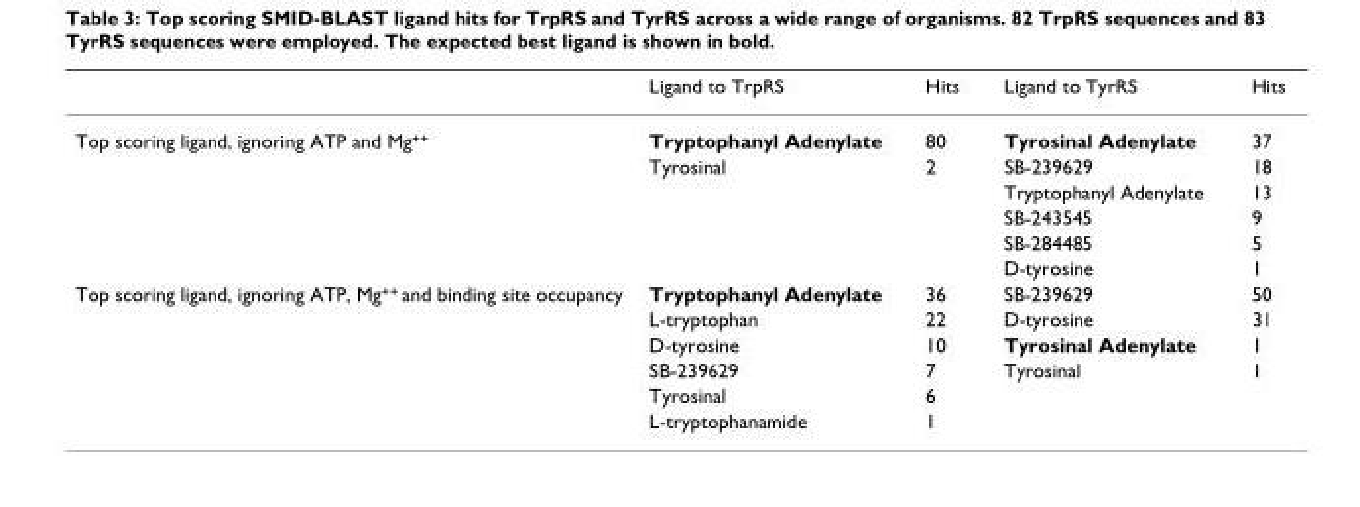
<table><thead><tr><td></td><td>Ligand to TrpRS</td><td>Hits</td><td>Ligand to TyrRS</td><td>Hits</td></tr></thead><tbody><tr><td rowspan="6">Top scoring ligand, ignoring ATP and Mg++</td><td>Tryptophanyl Adenylate</td><td>80</td><td>Tyrosinal Adenylate</td><td>37</td></tr><tr><td>Tyrosinal</td><td>2</td><td>SB-239629</td><td>18</td></tr><tr><td></td><td></td><td>Tryptophanyl Adenylate</td><td>13</td></tr><tr><td></td><td></td><td>SB-243545</td><td>9</td></tr><tr><td></td><td></td><td>SB-284485</td><td>5</td></tr><tr><td></td><td></td><td>D-tyrosine</td><td>1</td></tr><tr><td rowspan="6">Top scoring ligand, ignoring ATP, Mg++ and binding site occupancy</td><td>Tryptophanyl Adenylate</td><td>36</td><td>SB-239629</td><td>50</td></tr><tr><td>L-tryptophan</td><td>22</td><td>D-tyrosine</td><td>31</td></tr><tr><td>D-tyrosine</td><td>10</td><td>Tyrosinal Adenylate</td><td>1</td></tr><tr><td>SB-239629</td><td>7</td><td>Tyrosinal</td><td>1</td></tr><tr><td>Tyrosinal</td><td>6</td><td></td><td></td></tr><tr><td>L-tryptophanamide</td><td>1</td><td></td><td></td></tr></tbody></table>